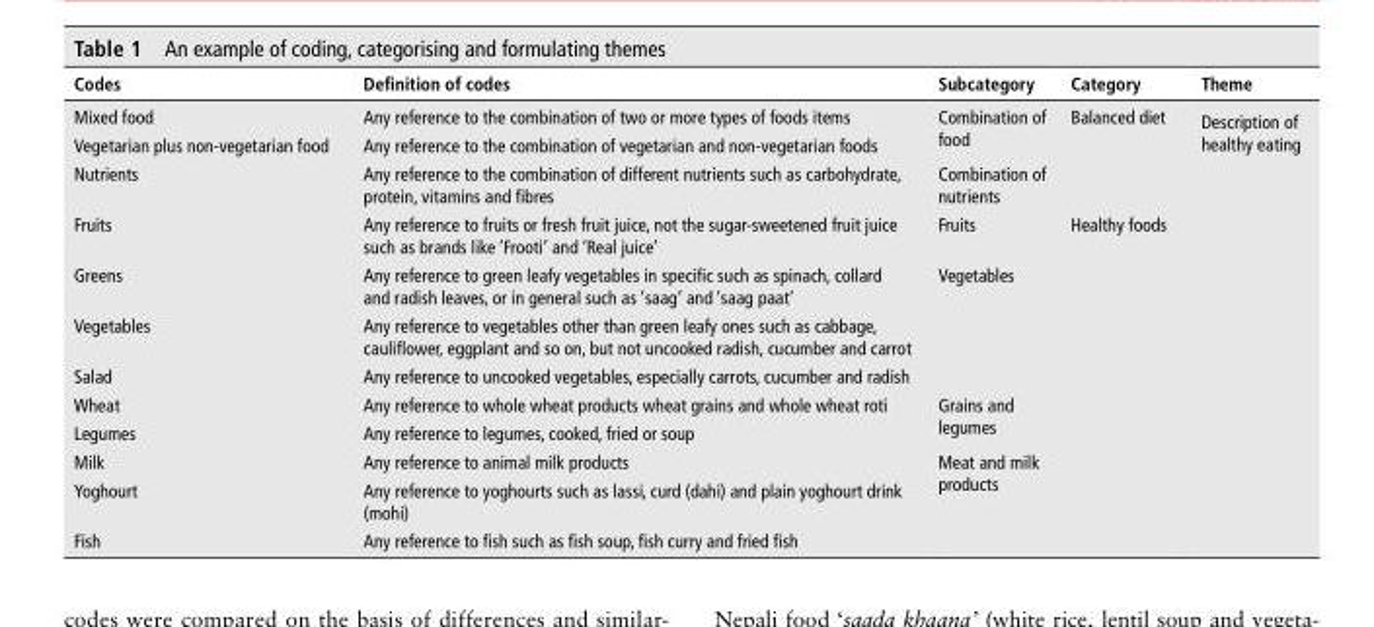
<table><thead><tr><td>codes</td><td>definition of codes</td><td>subcategory</td><td>category</td><td>theme</td></tr></thead><tbody><tr><td>Mixed food</td><td>Any reference to the combination of two or more types of foods items</td><td rowspan="2">Combination of food</td><td rowspan="3">Balanced diet</td><td rowspan="12">Description of healthy eating</td></tr><tr><td>Vegetarian plus non-vegetarian food</td><td>Any reference to the combination of vegetarian and non-vegetarian foods</td></tr><tr><td>Nutrients</td><td>Any reference to the combination of different nutrients such as carbohydrate, protein, vitamins and fibres</td><td>Combination of nutrients</td></tr><tr><td>Fruits</td><td>Any reference to fruits or fresh fruit juice, not the sugar-sweetened fruit juice such as brands like ‘Frooti’ and ‘Real juice’</td><td>Fruits</td><td rowspan="9">Healthy foods</td></tr><tr><td>Greens</td><td>Any reference to green leafy vegetables in specific such as spinach, collard and radish leaves, or in general such as ‘saag’ and ‘saag paat’</td><td rowspan="3">Vegetables</td></tr><tr><td>Vegetables</td><td>Any reference to vegetables other than green leafy ones such as cabbage, cauliflower, eggplant and so on, but not uncooked radish, cucumber and carrot</td></tr><tr><td>Salad</td><td>Any reference to uncooked vegetables, especially carrots, cucumber and radish</td></tr><tr><td>Wheat</td><td>Any reference to whole wheat products wheat grains and whole wheat roti</td><td rowspan="2">Grains and legumes</td></tr><tr><td>Legumes</td><td>Any reference to legumes, cooked, fried or soup</td></tr><tr><td>Milk</td><td>Any reference to animal milk products</td><td rowspan="3">Meat and milk products</td></tr><tr><td>Yoghourt</td><td>Any reference to yoghourts such as lassi, curd (dahi) and plain yoghourt drink (mohi)</td></tr><tr><td>Fish</td><td>Any reference to fish such as fish soup, fish curry and fried fish</td></tr></tbody></table>